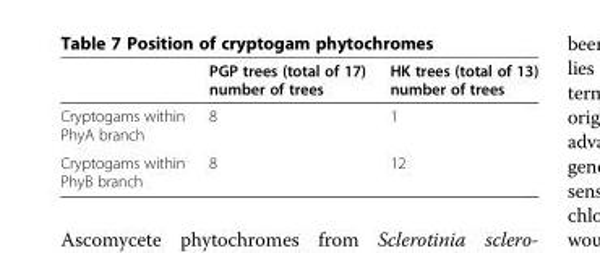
<table><thead><tr><td></td><td>PGP trees (total of 17) number of trees</td><td>HK trees (total of 13) number of trees</td></tr></thead><tbody><tr><td>Cryptogams within PhyA branch</td><td>8</td><td>1</td></tr><tr><td>Cryptogams within PhyB branch</td><td>8</td><td>12</td></tr></tbody></table>